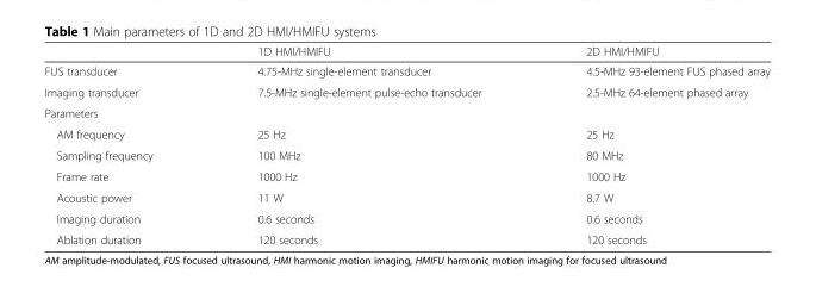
<table><thead><tr><td></td><td>1D HMI/HMIFU</td><td>2D HMI/HMIFU</td></tr></thead><tbody><tr><td>FUS transducer</td><td>4.75-MHz single-element transducer</td><td>4.5-MHz 93-element FUS phased array</td></tr><tr><td>Imaging transducer</td><td>7.5-MHz single-element pulse-echo transducer</td><td>2.5-MHz 64-element phased array</td></tr><tr><td colspan="3">Parameters</td></tr><tr><td>AM frequency</td><td>25 Hz</td><td>25 Hz</td></tr><tr><td>Sampling frequency</td><td>100 MHz</td><td>80 MHz</td></tr><tr><td>Frame rate</td><td>1000 Hz</td><td>1000 Hz</td></tr><tr><td>Acoustic power</td><td>11 W</td><td>8.7 W</td></tr><tr><td>Imaging duration</td><td>0.6 seconds</td><td>0.6 seconds</td></tr><tr><td>Ablation duration</td><td>120 seconds</td><td>120 seconds</td></tr></tbody></table>